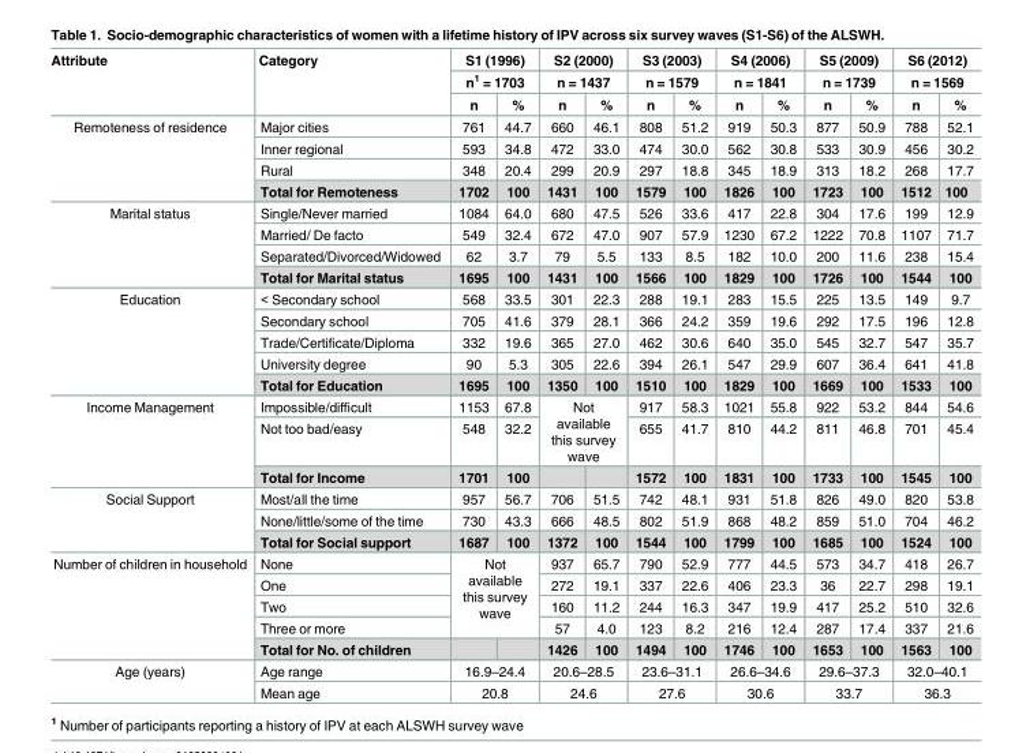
<table><thead><tr><td rowspan="3">Attribute</td><td rowspan="3">Category</td><td rowspan="2" colspan="2">S1 (1996) n<sup>1</sup> = 1703</td><td rowspan="2" colspan="2">S2 (2000) n = 1437</td><td rowspan="2" colspan="2">S3 (2003) n = 1579</td><td rowspan="2" colspan="2">S4 (2006) n = 1841</td><td rowspan="2" colspan="2">S5 (2009) n = 1739</td><td rowspan="2" colspan="2">S6 (2012) n = 1569</td></tr><tr></tr><tr><td>n</td><td>%</td><td>n</td><td>%</td><td>n</td><td>%</td><td>n</td><td>%</td><td>n</td><td>%</td><td>n</td><td>%</td></tr></thead><tbody><tr><td rowspan="4">Remoteness of residence</td><td>Major cities</td><td>761</td><td>44.7</td><td>660</td><td>46.1</td><td>808</td><td>51.2</td><td>919</td><td>50.3</td><td>877</td><td>50.9</td><td>788</td><td>52.1</td></tr><tr><td>Inner regional</td><td>593</td><td>34.8</td><td>472</td><td>33.0</td><td>474</td><td>30.0</td><td>562</td><td>30.8</td><td>533</td><td>30.9</td><td>456</td><td>30.2</td></tr><tr><td>Rural</td><td>348</td><td>20.4</td><td>299</td><td>20.9</td><td>297</td><td>18.8</td><td>345</td><td>18.9</td><td>313</td><td>18.2</td><td>268</td><td>17.7</td></tr><tr><td>Total for Remoteness</td><td>1702</td><td>100</td><td>1431</td><td>100</td><td>1579</td><td>100</td><td>1826</td><td>100</td><td>1723</td><td>100</td><td>1512</td><td>100</td></tr><tr><td rowspan="4">Marital status</td><td>Single/Never married</td><td>1084</td><td>64.0</td><td>680</td><td>47.5</td><td>526</td><td>33.6</td><td>417</td><td>22.8</td><td>304</td><td>17.6</td><td>199</td><td>12.9</td></tr><tr><td>Married/ De facto</td><td>549</td><td>32.4</td><td>672</td><td>47.0</td><td>907</td><td>57.9</td><td>1230</td><td>67.2</td><td>1222</td><td>70.8</td><td>1107</td><td>71.7</td></tr><tr><td>Separated/Divorced/Widowed</td><td>62</td><td>3.7</td><td>79</td><td>5.5</td><td>133</td><td>8.5</td><td>182</td><td>10.0</td><td>200</td><td>11.6</td><td>238</td><td>15.4</td></tr><tr><td>Total for Marital status</td><td>1695</td><td>100</td><td>1431</td><td>100</td><td>1566</td><td>100</td><td>1829</td><td>100</td><td>1726</td><td>100</td><td>1544</td><td>100</td></tr><tr><td rowspan="5">Education</td><td>&lt; Secondary school</td><td>568</td><td>33.5</td><td>301</td><td>22.3</td><td>288</td><td>19.1</td><td>283</td><td>15.5</td><td>225</td><td>13.5</td><td>149</td><td>9.7</td></tr><tr><td>Secondary school</td><td>705</td><td>41.6</td><td>379</td><td>28.1</td><td>366</td><td>24.2</td><td>359</td><td>19.6</td><td>292</td><td>17.5</td><td>196</td><td>12.8</td></tr><tr><td>Trade/Certificate/Diploma</td><td>332</td><td>19.6</td><td>365</td><td>27.0</td><td>462</td><td>30.6</td><td>640</td><td>35.0</td><td>545</td><td>32.7</td><td>547</td><td>35.7</td></tr><tr><td>University degree</td><td>90</td><td>5.3</td><td>305</td><td>22.6</td><td>394</td><td>26.1</td><td>547</td><td>29.9</td><td>607</td><td>36.4</td><td>641</td><td>41.8</td></tr><tr><td>Total for Education</td><td>1695</td><td>100</td><td>1350</td><td>100</td><td>1510</td><td>100</td><td>1829</td><td>100</td><td>1669</td><td>100</td><td>1533</td><td>100</td></tr><tr><td rowspan="3">Income Management</td><td>Impossible/difficult</td><td>1153</td><td>67.8</td><td rowspan="2" colspan="2">Not available this survey wave</td><td>917</td><td>58.3</td><td>1021</td><td>55.8</td><td>922</td><td>53.2</td><td>844</td><td>54.6</td></tr><tr><td>Not too bad/easy</td><td>548</td><td>32.2</td><td>655</td><td>41.7</td><td>810</td><td>44.2</td><td>811</td><td>46.8</td><td>701</td><td>45.4</td></tr><tr><td>Total for Income</td><td>1701</td><td>100</td><td></td><td></td><td>1572</td><td>100</td><td>1831</td><td>100</td><td>1733</td><td>100</td><td>1545</td><td>100</td></tr><tr><td rowspan="3">Social Support</td><td>Most/all the time</td><td>957</td><td>56.7</td><td>706</td><td>51.5</td><td>742</td><td>48.1</td><td>931</td><td>51.8</td><td>826</td><td>49.0</td><td>820</td><td>53.8</td></tr><tr><td>None/little/some of the time</td><td>730</td><td>43.3</td><td>666</td><td>48.5</td><td>802</td><td>51.9</td><td>868</td><td>48.2</td><td>859</td><td>51.0</td><td>704</td><td>46.2</td></tr><tr><td>Total for Social support</td><td>1687</td><td>100</td><td>1372</td><td>100</td><td>1544</td><td>100</td><td>1799</td><td>100</td><td>1685</td><td>100</td><td>1524</td><td>100</td></tr><tr><td rowspan="5">Number of children in household</td><td>None</td><td rowspan="4" colspan="2">Not available this survey wave</td><td>937</td><td>65.7</td><td>790</td><td>52.9</td><td>777</td><td>44.5</td><td>573</td><td>34.7</td><td>418</td><td>26.7</td></tr><tr><td>One</td><td>272</td><td>19.1</td><td>337</td><td>22.6</td><td>406</td><td>23.3</td><td>36</td><td>22.7</td><td>298</td><td>19.1</td></tr><tr><td>Two</td><td>160</td><td>11.2</td><td>244</td><td>16.3</td><td>347</td><td>19.9</td><td>417</td><td>25.2</td><td>510</td><td>32.6</td></tr><tr><td>Three or more</td><td>57</td><td>4.0</td><td>123</td><td>8.2</td><td>216</td><td>12.4</td><td>287</td><td>17.4</td><td>337</td><td>21.6</td></tr><tr><td>Total for No. of children</td><td></td><td></td><td>1426</td><td>100</td><td>1494</td><td>100</td><td>1746</td><td>100</td><td>1653</td><td>100</td><td>1563</td><td>100</td></tr><tr><td rowspan="2">Age (years)</td><td>Age range</td><td colspan="2">16.9–24.4</td><td colspan="2">20.6–28.5</td><td colspan="2">23.6–31.1</td><td colspan="2">26.6–34.6</td><td colspan="2">29.6–37.3</td><td colspan="2">32.0–40.1</td></tr><tr><td>Mean age</td><td colspan="2">20.8</td><td colspan="2">24.6</td><td colspan="2">27.6</td><td colspan="2">30.6</td><td colspan="2">33.7</td><td colspan="2">36.3</td></tr></tbody></table>